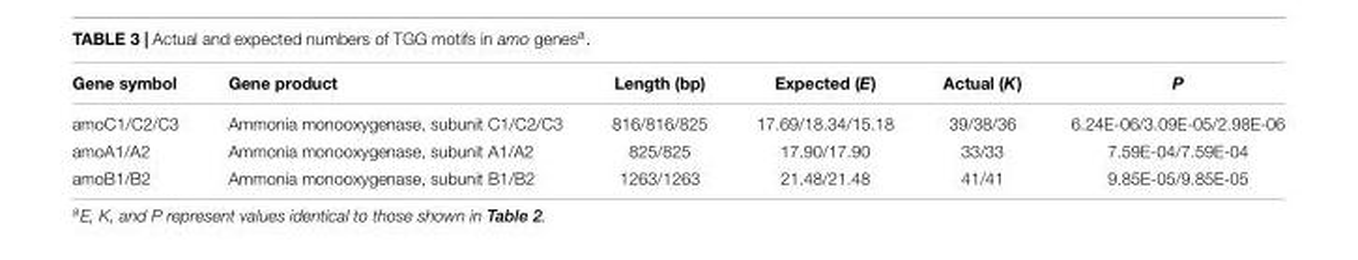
<table><thead><tr><td>Gene symbol</td><td>Gene product</td><td>Length (bp)</td><td>Expected (E)</td><td>Actual (K)</td><td>P</td></tr></thead><tbody><tr><td>amoC1/C2/C3</td><td>Ammonia monooxygenase, subunit C1/C2/C3</td><td>816/816/825</td><td>17.69/18.34/15.18</td><td>39/38/36</td><td>6.24E-06/3.09E-05/2.98E-06</td></tr><tr><td>amoA1/A2</td><td>Ammonia monooxygenase, subunit A1/A2</td><td>825/825</td><td>17.90/17.90</td><td>33/33</td><td>7.59E-04/7.59E-04</td></tr><tr><td>amoB1/B2</td><td>Ammonia monooxygenase, subunit B1/B2</td><td>1263/1263</td><td>21.48/21.48</td><td>41/41</td><td>9.85E-05/9.85E-05</td></tr></tbody></table>